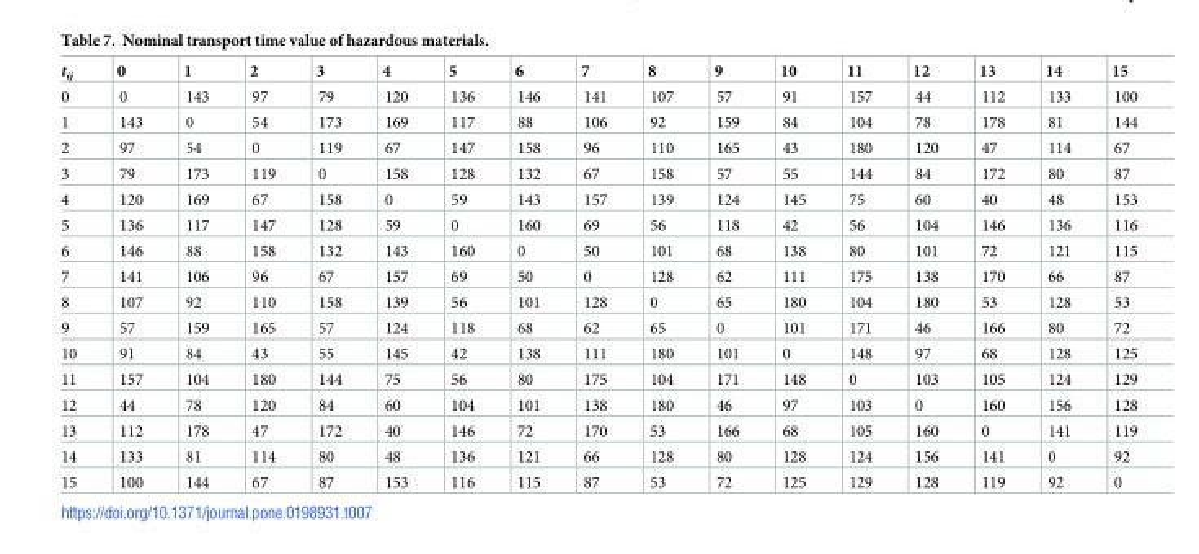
<table><thead><tr><td>t<sub>ij</sub></td><td>0</td><td>1</td><td>2</td><td>3</td><td>4</td><td>5</td><td>6</td><td>7</td><td>8</td><td>9</td><td>10</td><td>11</td><td>12</td><td>13</td><td>14</td><td>15</td></tr></thead><tbody><tr><td>0</td><td>0</td><td>143</td><td>97</td><td>79</td><td>120</td><td>136</td><td>146</td><td>141</td><td>107</td><td>57</td><td>91</td><td>157</td><td>44</td><td>112</td><td>133</td><td>100</td></tr><tr><td>1</td><td>143</td><td>0</td><td>54</td><td>173</td><td>169</td><td>117</td><td>88</td><td>106</td><td>92</td><td>159</td><td>84</td><td>104</td><td>78</td><td>178</td><td>81</td><td>144</td></tr><tr><td>2</td><td>97</td><td>54</td><td>0</td><td>119</td><td>67</td><td>147</td><td>158</td><td>96</td><td>110</td><td>165</td><td>43</td><td>180</td><td>120</td><td>47</td><td>114</td><td>67</td></tr><tr><td>3</td><td>79</td><td>173</td><td>119</td><td>0</td><td>158</td><td>128</td><td>132</td><td>67</td><td>158</td><td>57</td><td>55</td><td>144</td><td>84</td><td>172</td><td>80</td><td>87</td></tr><tr><td>4</td><td>120</td><td>169</td><td>67</td><td>158</td><td>0</td><td>59</td><td>143</td><td>157</td><td>139</td><td>124</td><td>145</td><td>75</td><td>60</td><td>40</td><td>48</td><td>153</td></tr><tr><td>5</td><td>136</td><td>117</td><td>147</td><td>128</td><td>59</td><td>0</td><td>160</td><td>69</td><td>56</td><td>118</td><td>42</td><td>56</td><td>104</td><td>146</td><td>136</td><td>116</td></tr><tr><td>6</td><td>146</td><td>88</td><td>158</td><td>132</td><td>143</td><td>160</td><td>0</td><td>50</td><td>101</td><td>68</td><td>138</td><td>80</td><td>101</td><td>72</td><td>121</td><td>115</td></tr><tr><td>7</td><td>141</td><td>106</td><td>96</td><td>67</td><td>157</td><td>69</td><td>50</td><td>0</td><td>128</td><td>62</td><td>111</td><td>175</td><td>138</td><td>170</td><td>66</td><td>87</td></tr><tr><td>8</td><td>107</td><td>92</td><td>110</td><td>158</td><td>139</td><td>56</td><td>101</td><td>128</td><td>0</td><td>65</td><td>180</td><td>104</td><td>180</td><td>53</td><td>128</td><td>53</td></tr><tr><td>9</td><td>57</td><td>159</td><td>165</td><td>57</td><td>124</td><td>118</td><td>68</td><td>62</td><td>65</td><td>0</td><td>101</td><td>171</td><td>46</td><td>166</td><td>80</td><td>72</td></tr><tr><td>10</td><td>91</td><td>84</td><td>43</td><td>55</td><td>145</td><td>42</td><td>138</td><td>111</td><td>180</td><td>101</td><td>0</td><td>148</td><td>97</td><td>68</td><td>128</td><td>125</td></tr><tr><td>11</td><td>157</td><td>104</td><td>180</td><td>144</td><td>75</td><td>56</td><td>80</td><td>175</td><td>104</td><td>171</td><td>148</td><td>0</td><td>103</td><td>105</td><td>124</td><td>129</td></tr><tr><td>12</td><td>44</td><td>78</td><td>120</td><td>84</td><td>60</td><td>104</td><td>101</td><td>138</td><td>180</td><td>46</td><td>97</td><td>103</td><td>0</td><td>160</td><td>156</td><td>128</td></tr><tr><td>13</td><td>112</td><td>178</td><td>47</td><td>172</td><td>40</td><td>146</td><td>72</td><td>170</td><td>53</td><td>166</td><td>68</td><td>105</td><td>160</td><td>0</td><td>141</td><td>119</td></tr><tr><td>14</td><td>133</td><td>81</td><td>114</td><td>80</td><td>48</td><td>136</td><td>121</td><td>66</td><td>128</td><td>80</td><td>128</td><td>124</td><td>156</td><td>141</td><td>0</td><td>92</td></tr><tr><td>15</td><td>100</td><td>144</td><td>67</td><td>87</td><td>153</td><td>116</td><td>115</td><td>87</td><td>53</td><td>72</td><td>125</td><td>129</td><td>128</td><td>119</td><td>92</td><td>0</td></tr></tbody></table>